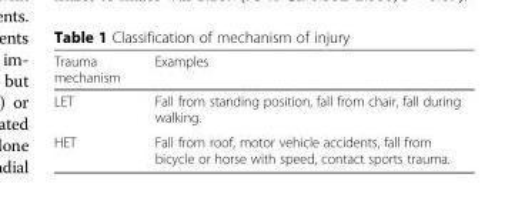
<table><thead><tr><td>Trauma mechanism</td><td>Examples</td></tr></thead><tbody><tr><td>LET</td><td>Fall from standing position, fall from chair, fall during walking.</td></tr><tr><td>HET</td><td>Fall from roof, motor vehicle accidents, fall from bicycle or horse with speed, contact sports trauma.</td></tr></tbody></table>